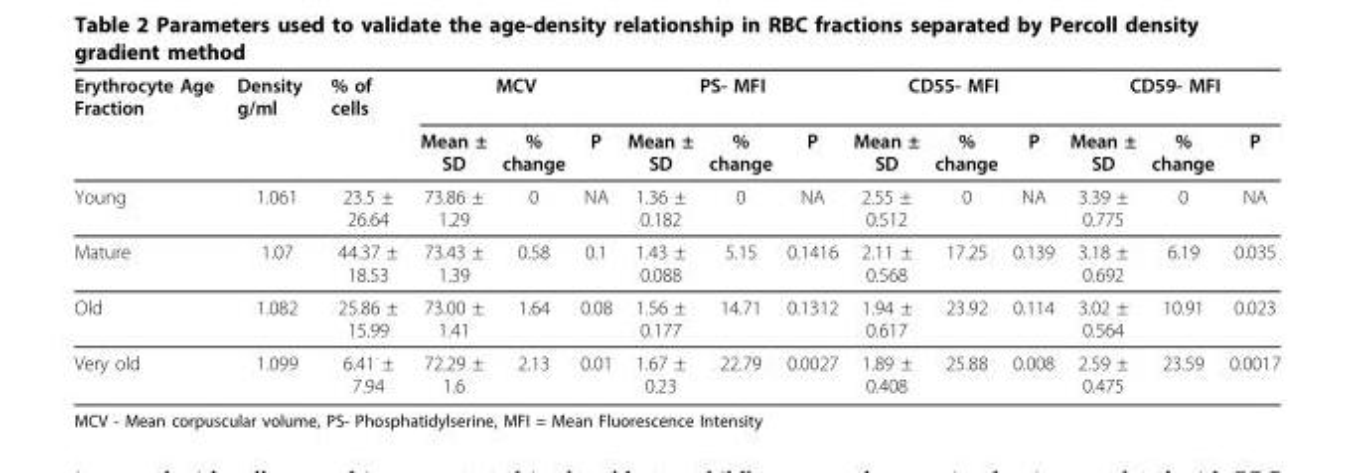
<table><thead><tr><td rowspan="2">Erythrocyte Age Fraction</td><td rowspan="2">Density g/ml</td><td rowspan="2">% of cells</td><td colspan="3">MCV</td><td colspan="3">PS- MFI</td><td colspan="3">CD55- MFI</td><td colspan="3">CD59- MFI</td></tr><tr><td>Mean ± SD</td><td>% change</td><td>P</td><td>Mean ± SD</td><td>% change</td><td>P</td><td>Mean ± SD</td><td>% change</td><td>P</td><td>Mean ± SD</td><td>% change</td><td>P</td></tr></thead><tbody><tr><td>Young</td><td>1.061</td><td>23.5 ± 26.64</td><td>73.86 ± 1.29</td><td>0</td><td>NA</td><td>1.36 ± 0.182</td><td>0</td><td>NA</td><td>2.55 ± 0.512</td><td>0</td><td>NA</td><td>3.39 ± 0.775</td><td>0</td><td>NA</td></tr><tr><td>Mature</td><td>1.07</td><td>44.37 ± 18.53</td><td>73.43 ± 1.39</td><td>0.58</td><td>0.1</td><td>1.43 ± 0.088</td><td>5.15</td><td>0.1416</td><td>2.11 ± 0.568</td><td>17.25</td><td>0.139</td><td>3.18 ± 0.692</td><td>6.19</td><td>0.035</td></tr><tr><td>Old</td><td>1.082</td><td>25.86 ± 15.99</td><td>73.00 ± 1.41</td><td>1.64</td><td>0.08</td><td>1.56 ± 0.177</td><td>14.71</td><td>0.1312</td><td>1.94 ± 0.617</td><td>23.92</td><td>0.114</td><td>3.02 ± 0.564</td><td>10.91</td><td>0.023</td></tr><tr><td>Very old</td><td>1.099</td><td>6.41 ± 7.94</td><td>72.29 ± 1.6</td><td>2.13</td><td>0.01</td><td>1.67 ± 0.23</td><td>22.79</td><td>0.0027</td><td>1.89 ± 0.408</td><td>25.88</td><td>0.008</td><td>2.59 ± 0.475</td><td>23.59</td><td>0.0017</td></tr></tbody></table>